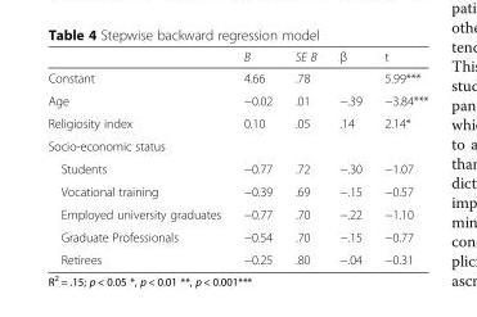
<table><thead><tr><td></td><td>B</td><td>SE B</td><td>β</td><td>t</td></tr></thead><tbody><tr><td>Constant</td><td>4.66</td><td>.78</td><td></td><td>5.99***</td></tr><tr><td>Age</td><td>−0.02</td><td>.01</td><td>−.39</td><td>−3.84***</td></tr><tr><td>Religiosity index</td><td>0.10</td><td>.05</td><td>.14</td><td>2.14*</td></tr><tr><td colspan="5">Socio-economic status</td></tr><tr><td>Students</td><td>−0.77</td><td>.72</td><td>−.30</td><td>−1.07</td></tr><tr><td>Vocational training</td><td>−0.39</td><td>.69</td><td>−.15</td><td>−0.57</td></tr><tr><td>Employed university graduates</td><td>−0.77</td><td>.70</td><td>−.22</td><td>−1.10</td></tr><tr><td>Graduate Professionals</td><td>−0.54</td><td>.70</td><td>−.15</td><td>−0.77</td></tr><tr><td>Retirees</td><td>−0.25</td><td>.80</td><td>−.04</td><td>−0.31</td></tr></tbody></table>